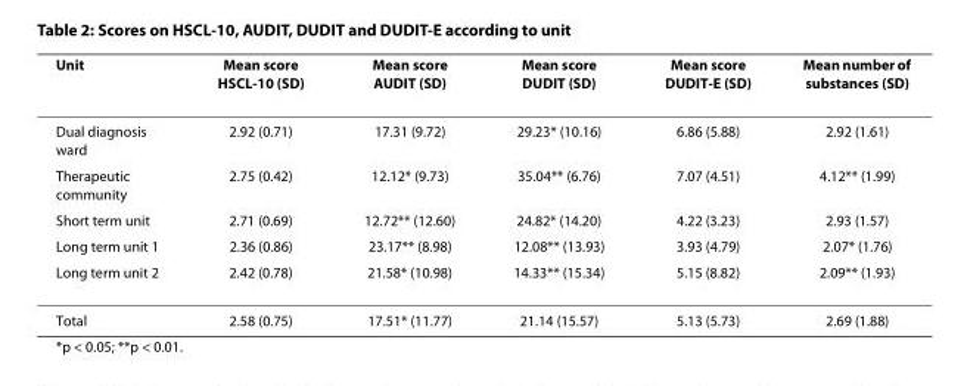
<table><thead><tr><td>Unit</td><td>Mean score HSCL-10 (SD)</td><td>Mean score AUDIT (SD)</td><td>Mean score DUDIT (SD)</td><td>Mean score DUDIT-E (SD)</td><td>Mean number of substances (SD)</td></tr></thead><tbody><tr><td>Dual diagnosis ward</td><td>2.92 (0.71)</td><td>17.31 (9.72)</td><td>29.23* (10.16)</td><td>6.86 (5.88)</td><td>2.92 (1.61)</td></tr><tr><td>Therapeutic community</td><td>2.75 (0.42)</td><td>12.12* (9.73)</td><td>35.04** (6.76)</td><td>7.07 (4.51)</td><td>4.12** (1.99)</td></tr><tr><td>Short term unit</td><td>2.71 (0.69)</td><td>12.72** (12.60)</td><td>24.82* (14.20)</td><td>4.22 (3.23)</td><td>2.93 (1.57)</td></tr><tr><td>Long term unit 1</td><td>2.36 (0.86)</td><td>23.17** (8.98)</td><td>12.08** (13.93)</td><td>3.93 (4.79)</td><td>2.07* (1.76)</td></tr><tr><td>Long term unit 2</td><td>2.42 (0.78)</td><td>21.58* (10.98)</td><td>14.33** (15.34)</td><td>5.15 (8.82)</td><td>2.09** (1.93)</td></tr><tr><td>Total</td><td>2.58 (0.75)</td><td>17.51* (11.77)</td><td>21.14 (15.57)</td><td>5.13 (5.73)</td><td>2.69 (1.88)</td></tr></tbody></table>